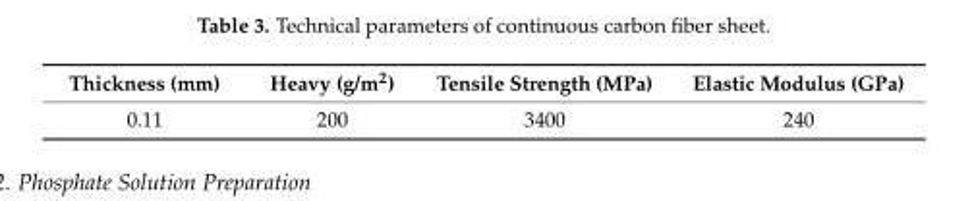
<table><thead><tr><td>Thickness (mm)</td><td>Heavy (g/m<sup>2</sup>)</td><td>Tensile Strength (MPa)</td><td>Elastic Modulus (GPa)</td></tr></thead><tbody><tr><td>0.11</td><td>200</td><td>3400</td><td>240</td></tr></tbody></table>